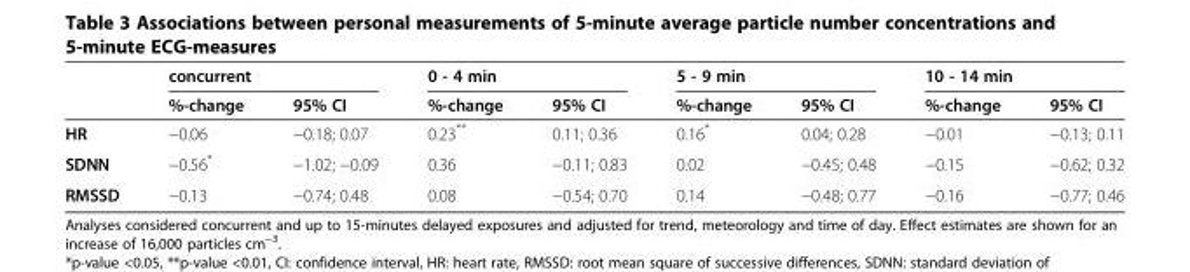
<table><thead><tr><td rowspan="2"></td><td colspan="2">concurrent</td><td colspan="2">0 - 4 min</td><td colspan="2">5 - 9 min</td><td colspan="2">10 - 14 min</td></tr><tr><td>%-change</td><td>95% CI</td><td>%-change</td><td>95% CI</td><td>%-change</td><td>95% CI</td><td>%-change</td><td>95% CI</td></tr></thead><tbody><tr><td>HR</td><td>−0.06</td><td>−0.18; 0.07</td><td>0.23**</td><td>0.11; 0.36</td><td>0.16*</td><td>0.04; 0.28</td><td>−0.01</td><td>−0.13; 0.11</td></tr><tr><td>SDNN</td><td>−0.56*</td><td>−1.02; −0.09</td><td>0.36</td><td>−0.11; 0.83</td><td>0.02</td><td>−0.45; 0.48</td><td>−0.15</td><td>−0.62; 0.32</td></tr><tr><td>RMSSD</td><td>−0.13</td><td>−0.74; 0.48</td><td>0.08</td><td>−0.54; 0.70</td><td>0.14</td><td>−0.48; 0.77</td><td>−0.16</td><td>−0.77; 0.46</td></tr></tbody></table>